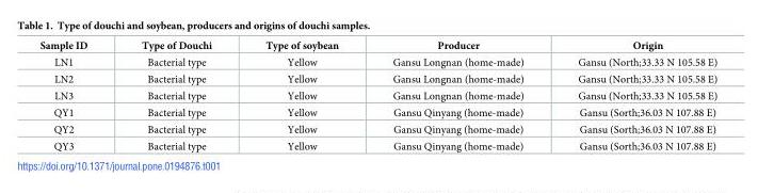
<table><thead><tr><td>Sample ID</td><td>Type of Douchi</td><td>Type of soybean</td><td>Producer</td><td>Origin</td></tr></thead><tbody><tr><td>LN1</td><td>Bacterial type</td><td>Yellow</td><td>Gansu Longnan (home-made)</td><td>Gansu (North;33.33 N 105.58 E)</td></tr><tr><td>LN2</td><td>Bacterial type</td><td>Yellow</td><td>Gansu Longnan (home-made)</td><td>Gansu (North;33.33 N 105.58 E)</td></tr><tr><td>LN3</td><td>Bacterial type</td><td>Yellow</td><td>Gansu Longnan (home-made)</td><td>Gansu (North;33.33 N 105.58 E)</td></tr><tr><td>QY1</td><td>Bacterial type</td><td>Yellow</td><td>Gansu Qinyang (home-made)</td><td>Gansu (Sorth;36.03 N 107.88 E)</td></tr><tr><td>QY2</td><td>Bacterial type</td><td>Yellow</td><td>Gansu Qinyang (home-made)</td><td>Gansu (Sorth;36.03 N 107.88 E)</td></tr><tr><td>QY3</td><td>Bacterial type</td><td>Yellow</td><td>Gansu Qinyang (home-made)</td><td>Gansu (Sorth;36.03 N 107.88 E)</td></tr></tbody></table>